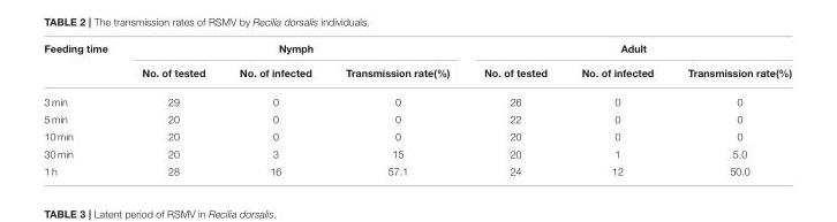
<table><thead><tr><td rowspan="2">Feeding time</td><td colspan="3">Nymph</td><td colspan="3">Adult</td></tr><tr><td>No. of tested</td><td>No. of infected</td><td>Transmission rate(%)</td><td>No. of tested</td><td>No. of infected</td><td>Transmission rate(%)</td></tr></thead><tbody><tr><td>3 min</td><td>29</td><td>0</td><td>0</td><td>26</td><td>0</td><td>0</td></tr><tr><td>5 min</td><td>20</td><td>0</td><td>0</td><td>22</td><td>0</td><td>0</td></tr><tr><td>10 min</td><td>20</td><td>0</td><td>0</td><td>20</td><td>0</td><td>0</td></tr><tr><td>30 min</td><td>20</td><td>3</td><td>15</td><td>20</td><td>1</td><td>5.0</td></tr><tr><td>1 h</td><td>28</td><td>16</td><td>57.1</td><td>24</td><td>12</td><td>50.0</td></tr></tbody></table>